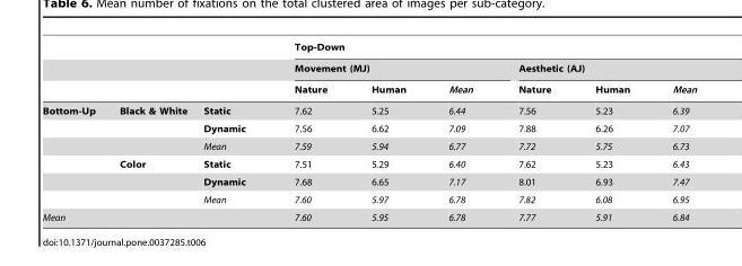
<table><thead><tr><td rowspan="3"></td><td rowspan="3"></td><td rowspan="3"></td><td colspan="6">Top-Down</td></tr><tr><td colspan="3">Movement (MJ)</td><td colspan="3">Aesthetic (AJ)</td></tr><tr><td>Nature</td><td>Human</td><td>Mean</td><td>Nature</td><td>Human</td><td>Mean</td></tr></thead><tbody><tr><td rowspan="6">Bottom-Up</td><td>Black &amp; White</td><td>Static</td><td>7.62</td><td>5.25</td><td>6.44</td><td>7.56</td><td>5.23</td><td>6.39</td></tr><tr><td></td><td>Dynamic</td><td>7.56</td><td>6.62</td><td>7.09</td><td>7.88</td><td>6.26</td><td>7.07</td></tr><tr><td></td><td>Mean</td><td>7.59</td><td>5.94</td><td>6.77</td><td>7.72</td><td>5.75</td><td>6.73</td></tr><tr><td>Color</td><td>Static</td><td>7.51</td><td>5.29</td><td>6.40</td><td>7.62</td><td>5.23</td><td>6.43</td></tr><tr><td></td><td>Dynamic</td><td>7.68</td><td>6.65</td><td>7.17</td><td>8.01</td><td>6.93</td><td>7.47</td></tr><tr><td></td><td>Mean</td><td>7.60</td><td>5.97</td><td>6.78</td><td>7.82</td><td>6.08</td><td>6.95</td></tr><tr><td colspan="3">Mean</td><td>7.60</td><td>5.95</td><td>6.78</td><td>7.77</td><td>5.91</td><td>6.84</td></tr></tbody></table>